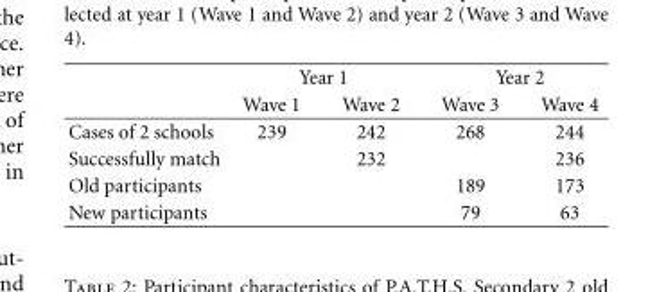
<table><thead><tr><td rowspan="2"></td><td colspan="2">Year 1</td><td colspan="2">Year 2</td></tr><tr><td>Wave 1</td><td>Wave 2</td><td>Wave 3</td><td>Wave 4</td></tr></thead><tbody><tr><td>Cases of 2 schools</td><td>239</td><td>242</td><td>268</td><td>244</td></tr><tr><td>Successfully match</td><td></td><td>232</td><td></td><td>236</td></tr><tr><td>Old participants</td><td></td><td></td><td>189</td><td>173</td></tr><tr><td>New participants</td><td></td><td></td><td>79</td><td>63</td></tr></tbody></table>